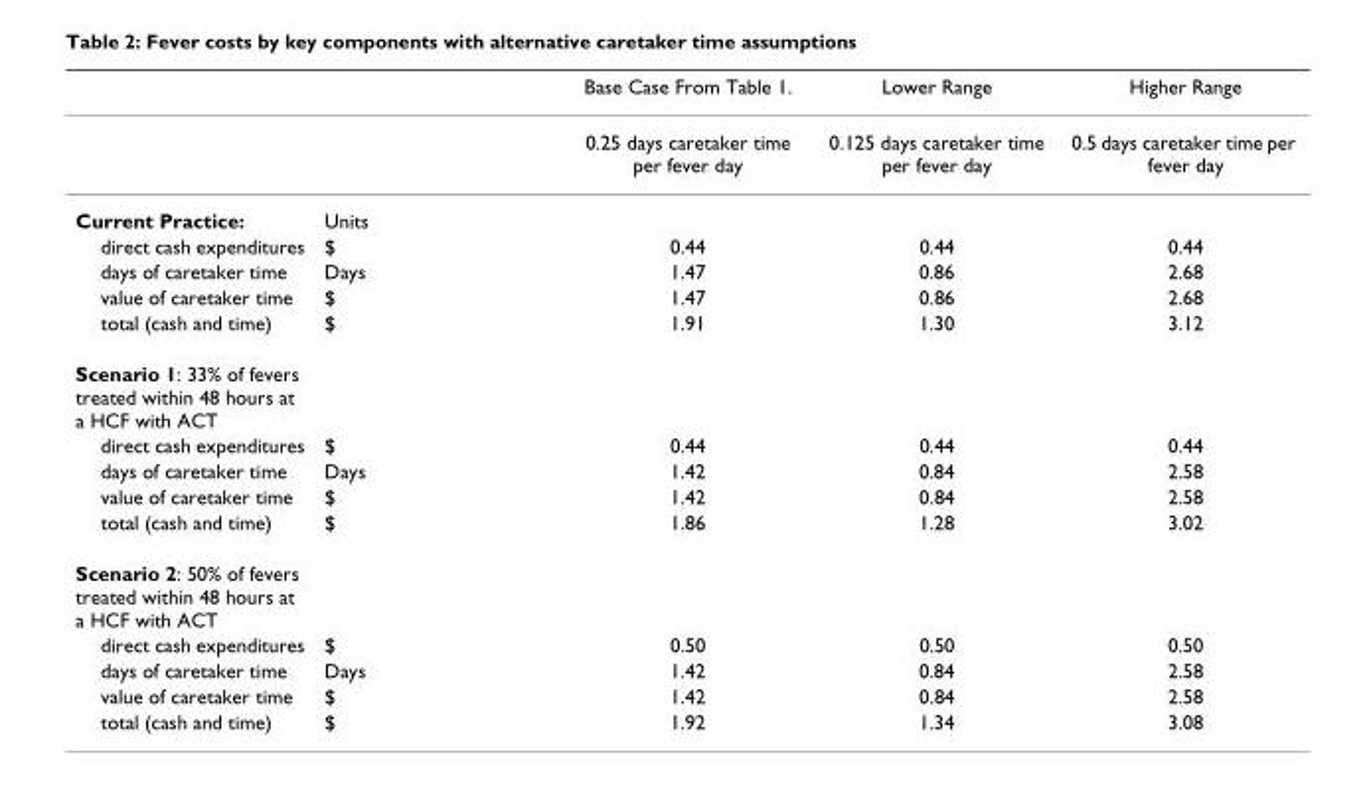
<table><thead><tr><td></td><td></td><td>Base Case From Table 1.</td><td>Lower Range</td><td>Higher Range</td></tr></thead><tbody><tr><td></td><td></td><td>0.25 days caretaker time per fever day</td><td>0.125 days caretaker time per fever day</td><td>0.5 days caretaker time per fever day</td></tr><tr><td>Current Practice:</td><td>Units</td><td></td><td></td><td></td></tr><tr><td>direct cash expenditures</td><td>$</td><td>0.44</td><td>0.44</td><td>0.44</td></tr><tr><td>days of caretaker time</td><td>Days</td><td>1.47</td><td>0.86</td><td>2.68</td></tr><tr><td>value of caretaker time</td><td>$</td><td>1.47</td><td>0.86</td><td>2.68</td></tr><tr><td>total (cash and time)</td><td>$</td><td>1.91</td><td>1.30</td><td>3.12</td></tr><tr><td colspan="5">Scenario 1: 33% of fevers treated within 48 hours at a HCF with ACT</td></tr><tr><td>direct cash expenditures</td><td>$</td><td>0.44</td><td>0.44</td><td>0.44</td></tr><tr><td>days of caretaker time</td><td>Days</td><td>1.42</td><td>0.84</td><td>2.58</td></tr><tr><td>value of caretaker time</td><td>$</td><td>1.42</td><td>0.84</td><td>2.58</td></tr><tr><td>total (cash and time)</td><td>$</td><td>1.86</td><td>1.28</td><td>3.02</td></tr><tr><td colspan="5">Scenario 2: 50% of fevers treated within 48 hours at a HCF with ACT</td></tr><tr><td>direct cash expenditures</td><td>$</td><td>0.50</td><td>0.50</td><td>0.50</td></tr><tr><td>days of caretaker time</td><td>Days</td><td>1.42</td><td>0.84</td><td>2.58</td></tr><tr><td>value of caretaker time</td><td>$</td><td>1.42</td><td>0.84</td><td>2.58</td></tr><tr><td>total (cash and time)</td><td>$</td><td>1.92</td><td>1.34</td><td>3.08</td></tr></tbody></table>